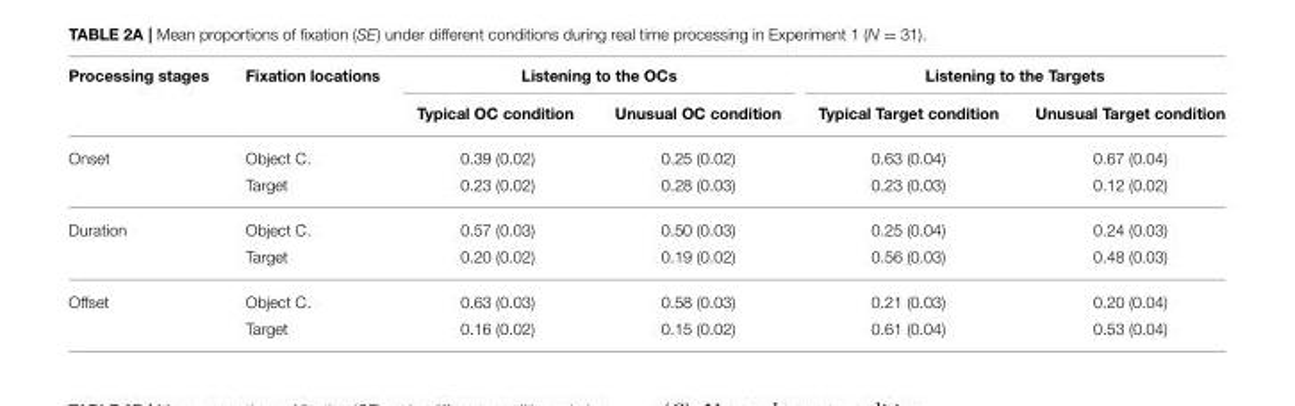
<table><thead><tr><td rowspan="2">Processing stages</td><td rowspan="2">Fixation locations</td><td colspan="2">Listening to the OCs</td><td colspan="2">Listening to the Targets</td></tr><tr><td>Typical OC condition</td><td>Unusual OC condition</td><td>Typical Target condition</td><td>Unusual Target condition</td></tr></thead><tbody><tr><td rowspan="2">Onset</td><td>Object C.</td><td>0.39 (0.02)</td><td>0.25 (0.02)</td><td>0.63 (0.04)</td><td>0.67 (0.04)</td></tr><tr><td>Target</td><td>0.23 (0.02)</td><td>0.28 (0.03)</td><td>0.23 (0.03)</td><td>0.12 (0.02)</td></tr><tr><td rowspan="2">Duration</td><td>Object C.</td><td>0.57 (0.03)</td><td>0.50 (0.03)</td><td>0.25 (0.04)</td><td>0.24 (0.03)</td></tr><tr><td>Target</td><td>0.20 (0.02)</td><td>0.19 (0.02)</td><td>0.56 (0.03)</td><td>0.48 (0.03)</td></tr><tr><td rowspan="2">Offset</td><td>Object C.</td><td>0.63 (0.03)</td><td>0.58 (0.03)</td><td>0.21 (0.03)</td><td>0.20 (0.04)</td></tr><tr><td>Target</td><td>0.16 (0.02)</td><td>0.15 (0.02)</td><td>0.61 (0.04)</td><td>0.53 (0.04)</td></tr></tbody></table>